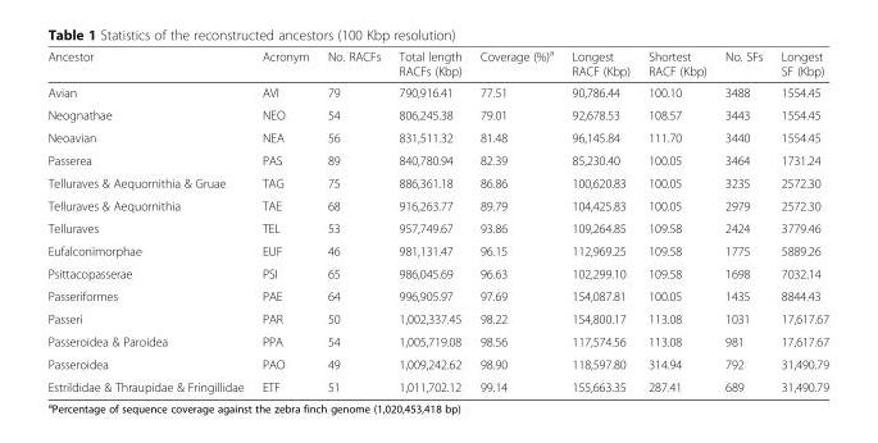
<table><thead><tr><td>Ancestor</td><td>Acronym</td><td>No. RACFs</td><td>Total length RACFs (Kbp)</td><td>Coverage (%)<sup>a</sup></td><td>Longest RACF (Kbp)</td><td>Shortest RACF (Kbp)</td><td>No. SFs</td><td>Longest SF (Kbp)</td></tr></thead><tbody><tr><td>Avian</td><td>AVI</td><td>79</td><td>790,916.41</td><td>77.51</td><td>90,786.44</td><td>100.10</td><td>3488</td><td>1554.45</td></tr><tr><td>Neognathae</td><td>NEO</td><td>54</td><td>806,245.38</td><td>79.01</td><td>92,678.53</td><td>108.57</td><td>3443</td><td>1554.45</td></tr><tr><td>Neoavian</td><td>NEA</td><td>56</td><td>831,511.32</td><td>81.48</td><td>96,145.84</td><td>111.70</td><td>3440</td><td>1554.45</td></tr><tr><td>Passerea</td><td>PAS</td><td>89</td><td>840,780.94</td><td>82.39</td><td>85,230.40</td><td>100.05</td><td>3464</td><td>1731.24</td></tr><tr><td>Telluraves &amp; Aequornithia &amp; Gruae</td><td>TAG</td><td>75</td><td>886,361.18</td><td>86.86</td><td>100,620.83</td><td>100.05</td><td>3235</td><td>2572.30</td></tr><tr><td>Telluraves &amp; Aequornithia</td><td>TAE</td><td>68</td><td>916,263.77</td><td>89.79</td><td>104,425.83</td><td>100.05</td><td>2979</td><td>2572.30</td></tr><tr><td>Telluraves</td><td>TEL</td><td>53</td><td>957,749.67</td><td>93.86</td><td>109,264.85</td><td>109.58</td><td>2424</td><td>3779.46</td></tr><tr><td>Eufalconimorphae</td><td>EUF</td><td>46</td><td>981,131.47</td><td>96.15</td><td>112,969.25</td><td>109.58</td><td>1775</td><td>5889.26</td></tr><tr><td>Psittacopasserae</td><td>PSI</td><td>65</td><td>986,045.69</td><td>96.63</td><td>102,299.10</td><td>109.58</td><td>1698</td><td>7032.14</td></tr><tr><td>Passeriformes</td><td>PAE</td><td>64</td><td>996,905.97</td><td>97.69</td><td>154,087.81</td><td>100.05</td><td>1435</td><td>8844.43</td></tr><tr><td>Passeri</td><td>PAR</td><td>50</td><td>1,002,337.45</td><td>98.22</td><td>154,800.17</td><td>113.08</td><td>1031</td><td>17,617.67</td></tr><tr><td>Passeroidea &amp; Paroidea</td><td>PPA</td><td>54</td><td>1,005,719.08</td><td>98.56</td><td>117,574.56</td><td>113.08</td><td>981</td><td>17,617.67</td></tr><tr><td>Passeroidea</td><td>PAO</td><td>49</td><td>1,009,242.62</td><td>98.90</td><td>118,597.80</td><td>314.94</td><td>792</td><td>31,490.79</td></tr><tr><td>Estrildidae &amp; Thraupidae &amp; Fringillidae</td><td>ETF</td><td>51</td><td>1,011,702.12</td><td>99.14</td><td>155,663.35</td><td>287.41</td><td>689</td><td>31,490.79</td></tr></tbody></table>